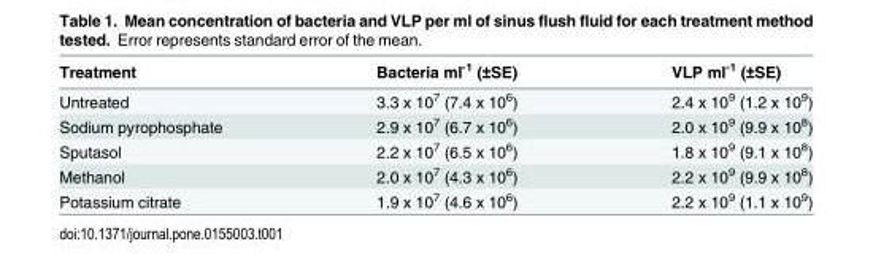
<table><thead><tr><td>Treatment</td><td>Bacteria ml<sup>-1</sup> (±SE)</td><td>VLP ml<sup>-1</sup> (±SE)</td></tr></thead><tbody><tr><td>Untreated</td><td>3.3 x 10<sup>7</sup> (7.4 x 10<sup>6</sup>)</td><td>2.4 x 10<sup>9</sup> (1.2 x 10<sup>9</sup>)</td></tr><tr><td>Sodium pyrophosphate</td><td>2.9 x 10<sup>7</sup> (6.7 x 10<sup>6</sup>)</td><td>2.0 x 10<sup>9</sup> (9.9 x 10<sup>8</sup>)</td></tr><tr><td>Sputasol</td><td>2.2 x 10<sup>7</sup> (6.5 x 10<sup>6</sup>)</td><td>1.8 x 10<sup>9</sup> (9.1 x 10<sup>8</sup>)</td></tr><tr><td>Methanol</td><td>2.0 x 10<sup>7</sup> (4.3 x 10<sup>6</sup>)</td><td>2.2 x 10<sup>9</sup> (9.9 x 10<sup>8</sup>)</td></tr><tr><td>Potassium citrate</td><td>1.9 x 10<sup>7</sup> (4.6 x 10<sup>6</sup>)</td><td>2.2 x 10<sup>9</sup> (1.1 x 10<sup>9</sup>)</td></tr></tbody></table>